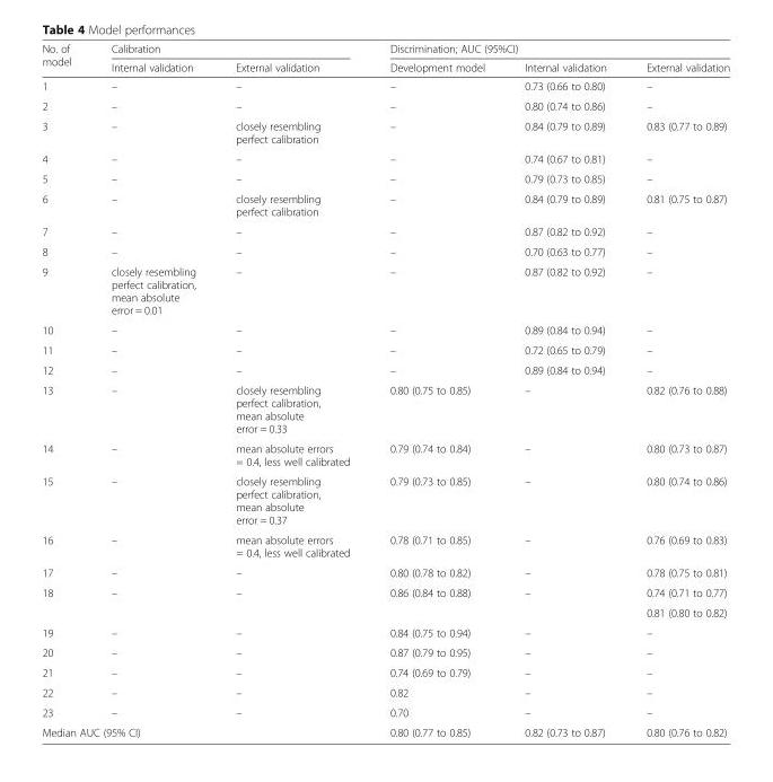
<table><thead><tr><td rowspan="2">No. of model</td><td colspan="2">Calibration</td><td colspan="3">Discrimination; AUC (95%CI)</td></tr><tr><td>Internal validation</td><td>External validation</td><td>Development model</td><td>Internal validation</td><td>External validation</td></tr></thead><tbody><tr><td>1</td><td>–</td><td>–</td><td>–</td><td>0.73 (0.66 to 0.80)</td><td>–</td></tr><tr><td>2</td><td>–</td><td>–</td><td>–</td><td>0.80 (0.74 to 0.86)</td><td>–</td></tr><tr><td>3</td><td>–</td><td>closely resembling perfect calibration</td><td>–</td><td>0.84 (0.79 to 0.89)</td><td>0.83 (0.77 to 0.89)</td></tr><tr><td>4</td><td>–</td><td>–</td><td>–</td><td>0.74 (0.67 to 0.81)</td><td>–</td></tr><tr><td>5</td><td>–</td><td>–</td><td>–</td><td>0.79 (0.73 to 0.85)</td><td>–</td></tr><tr><td>6</td><td>–</td><td>closely resembling perfect calibration</td><td>–</td><td>0.84 (0.79 to 0.89)</td><td>0.81 (0.75 to 0.87)</td></tr><tr><td>7</td><td>–</td><td>–</td><td>–</td><td>0.87 (0.82 to 0.92)</td><td>–</td></tr><tr><td>8</td><td>–</td><td>–</td><td>–</td><td>0.70 (0.63 to 0.77)</td><td>–</td></tr><tr><td>9</td><td>closely resembling perfect calibration, mean absolute error = 0.01</td><td>–</td><td>–</td><td>0.87 (0.82 to 0.92)</td><td>–</td></tr><tr><td>10</td><td>–</td><td>–</td><td>–</td><td>0.89 (0.84 to 0.94)</td><td>–</td></tr><tr><td>11</td><td>–</td><td>–</td><td>–</td><td>0.72 (0.65 to 0.79)</td><td>–</td></tr><tr><td>12</td><td>–</td><td>–</td><td>–</td><td>0.89 (0.84 to 0.94)</td><td>–</td></tr><tr><td>13</td><td>–</td><td>closely resembling perfect calibration, mean absolute error = 0.33</td><td>0.80 (0.75 to 0.85)</td><td>–</td><td>0.82 (0.76 to 0.88)</td></tr><tr><td>14</td><td>–</td><td>mean absolute errors = 0.4, less well calibrated</td><td>0.79 (0.74 to 0.84)</td><td>–</td><td>0.80 (0.73 to 0.87)</td></tr><tr><td>15</td><td>–</td><td>closely resembling perfect calibration, mean absolute error = 0.37</td><td>0.79 (0.73 to 0.85)</td><td>–</td><td>0.80 (0.74 to 0.86)</td></tr><tr><td>16</td><td>–</td><td>mean absolute errors = 0.4, less well calibrated</td><td>0.78 (0.71 to 0.85)</td><td>–</td><td>0.76 (0.69 to 0.83)</td></tr><tr><td>17</td><td>–</td><td>–</td><td>0.80 (0.78 to 0.82)</td><td>–</td><td>0.78 (0.75 to 0.81)</td></tr><tr><td rowspan="2">18</td><td rowspan="2">–</td><td rowspan="2">–</td><td rowspan="2">0.86 (0.84 to 0.88)</td><td>–</td><td>0.74 (0.71 to 0.77)</td></tr><tr><td></td><td>0.81 (0.80 to 0.82)</td></tr><tr><td>19</td><td>–</td><td>–</td><td>0.84 (0.75 to 0.94)</td><td>–</td><td>–</td></tr><tr><td>20</td><td>–</td><td>–</td><td>0.87 (0.79 to 0.95)</td><td>–</td><td>–</td></tr><tr><td>21</td><td>–</td><td>–</td><td>0.74 (0.69 to 0.79)</td><td>–</td><td>–</td></tr><tr><td>22</td><td>–</td><td>–</td><td>0.82</td><td>–</td><td>–</td></tr><tr><td>23</td><td>–</td><td>–</td><td>0.70</td><td>–</td><td>–</td></tr><tr><td colspan="3">Median AUC (95% CI)</td><td>0.80 (0.77 to 0.85)</td><td>0.82 (0.73 to 0.87)</td><td>0.80 (0.76 to 0.82)</td></tr></tbody></table>